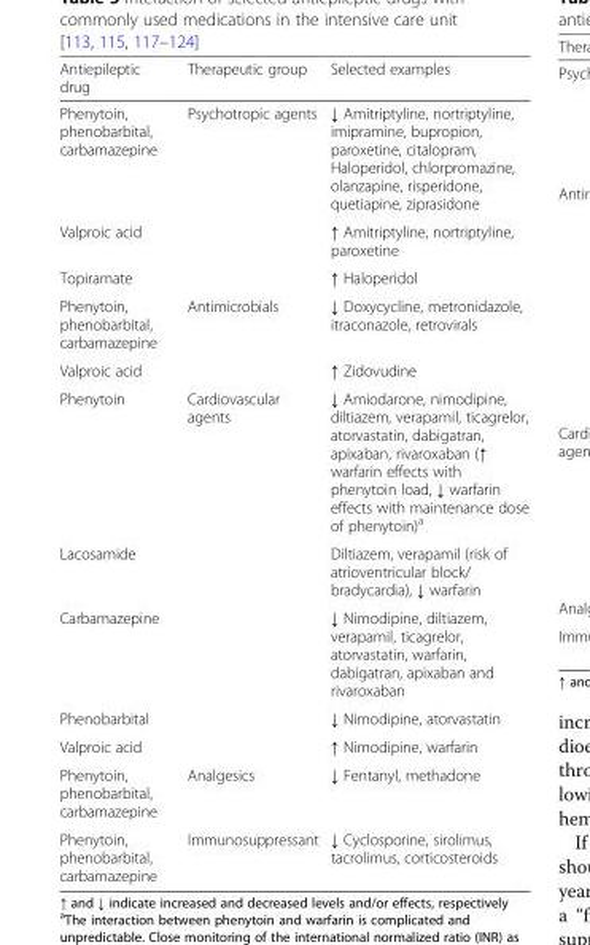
<table><thead><tr><td>Antiepileptic drug</td><td>Therapeutic group</td><td>Selected examples</td></tr></thead><tbody><tr><td>Phenytoin, phenobarbital, carbamazepine</td><td rowspan="3">Psychotropic agents</td><td>↓ Amitriptyline, nortriptyline, imipramine, bupropion, paroxetine, citalopram, Haloperidol, chlorpromazine, olanzapine, risperidone, quetiapine, ziprasidone</td></tr><tr><td>Valproic acid</td><td>↑ Amitriptyline, nortriptyline, paroxetine</td></tr><tr><td>Topiramate</td><td>↑ Haloperidol</td></tr><tr><td>Phenytoin, phenobarbital, carbamazepine</td><td rowspan="2">Antimicrobials</td><td>↓ Doxycycline, metronidazole, itraconazole, retrovirals</td></tr><tr><td>Valproic acid</td><td>↑ Zidovudine</td></tr><tr><td>Phenytoin</td><td rowspan="5">Cardiovascular agents</td><td>↓ Amiodarone, nimodipine, diltiazem, verapamil, ticagrelor, atorvastatin, dabigatran, apixaban, rivaroxaban (↑ warfarin effects with phenytoin load, ↓ warfarin effects with maintenance dose of phenytoin)<sup>a</sup></td></tr><tr><td>Lacosamide</td><td>Diltiazem, verapamil (risk of atrioventricular block/ bradycardia), ↓ warfarin</td></tr><tr><td>Carbamazepine</td><td>↓ Nimodipine, diltiazem, verapamil, ticagrelor, atorvastatin, warfarin, dabigatran, apixaban and rivaroxaban</td></tr><tr><td>Phenobarbital</td><td>↓ Nimodipine, atorvastatin</td></tr><tr><td>Valproic acid</td><td>↑ Nimodipine, warfarin</td></tr><tr><td>Phenytoin, phenobarbital, carbamazepine</td><td>Analgesics</td><td>↓ Fentanyl, methadone</td></tr><tr><td>Phenytoin, phenobarbital, carbamazepine</td><td>Immunosuppressant</td><td>↓ Cyclosporine, sirolimus, tacrolimus, corticosteroids</td></tr></tbody></table>